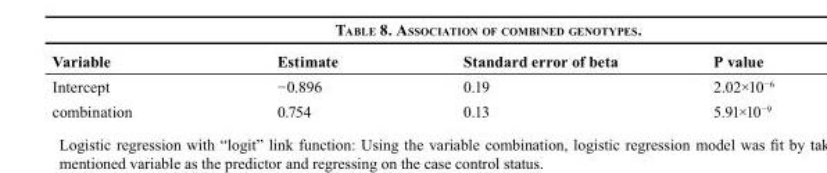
<table><thead><tr><td>Variable</td><td>Estimate</td><td>Standard error of beta</td><td>P value</td></tr></thead><tbody><tr><td>Intercept</td><td>−0.896</td><td>0.19</td><td>2.02×10<sup>−6</sup></td></tr><tr><td>combination</td><td>0.754</td><td>0.13</td><td>5.91×10<sup>−9</sup></td></tr></tbody></table>